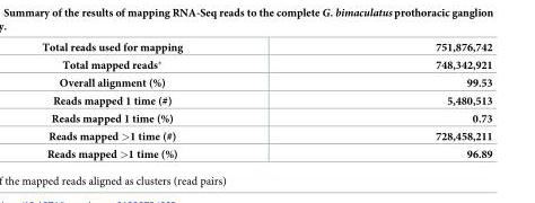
<table><tbody><tr><td>Total reads used for mapping</td><td>751,876,742</td></tr><tr><td>Total mapped reads*</td><td>748,342,921</td></tr><tr><td>Overall alignment (%)</td><td>99.53</td></tr><tr><td>Reads mapped 1 time (#)</td><td>5,480,513</td></tr><tr><td>Reads mapped 1 time (%)</td><td>0.73</td></tr><tr><td>Reads mapped &gt;1 time (#)</td><td>728,458,211</td></tr><tr><td>Reads mapped &gt;1 time (%)</td><td>96.89</td></tr></tbody></table>